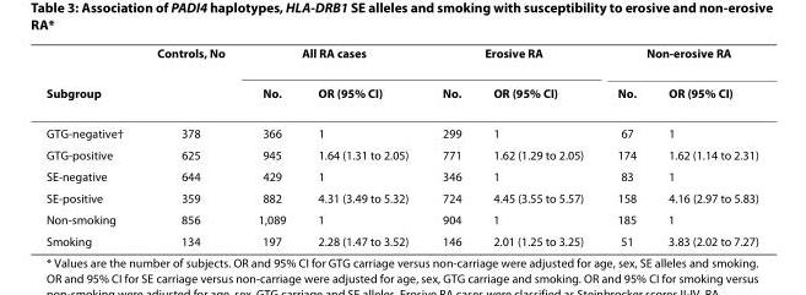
<table><thead><tr><td rowspan="2">Subgroup</td><td rowspan="2">Controls, No</td><td colspan="2">All RA cases</td><td colspan="2">Erosive RA</td><td colspan="2">Non-erosive RA</td></tr><tr><td>No.</td><td>OR (95% CI)</td><td>No.</td><td>OR (95% CI)</td><td>No.</td><td>OR (95% CI)</td></tr></thead><tbody><tr><td>GTG-negative†</td><td>378</td><td>366</td><td>1</td><td>299</td><td>1</td><td>67</td><td>1</td></tr><tr><td>GTG-positive</td><td>625</td><td>945</td><td>1.64 (1.31 to 2.05)</td><td>771</td><td>1.62 (1.29 to 2.05)</td><td>174</td><td>1.62 (1.14 to 2.31)</td></tr><tr><td>SE-negative</td><td>644</td><td>429</td><td>1</td><td>346</td><td>1</td><td>83</td><td>1</td></tr><tr><td>SE-positive</td><td>359</td><td>882</td><td>4.31 (3.49 to 5.32)</td><td>724</td><td>4.45 (3.55 to 5.57)</td><td>158</td><td>4.16 (2.97 to 5.83)</td></tr><tr><td>Non-smoking</td><td>856</td><td>1,089</td><td>1</td><td>904</td><td>1</td><td>185</td><td>1</td></tr><tr><td>Smoking</td><td>134</td><td>197</td><td>2.28 (1.47 to 3.52)</td><td>146</td><td>2.01 (1.25 to 3.25)</td><td>51</td><td>3.83 (2.02 to 7.27)</td></tr></tbody></table>